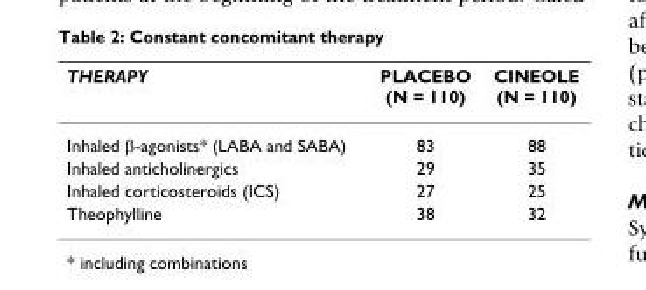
<table><thead><tr><td>THERAPY</td><td>PLACEBO (N = 110)</td><td>CINEOLE (N = 110)</td></tr></thead><tbody><tr><td>Inhaled β-agonists* (LABA and SABA)</td><td>83</td><td>88</td></tr><tr><td>Inhaled anticholinergics</td><td>29</td><td>35</td></tr><tr><td>Inhaled corticosteroids (ICS)</td><td>27</td><td>25</td></tr><tr><td>Theophylline</td><td>38</td><td>32</td></tr></tbody></table>